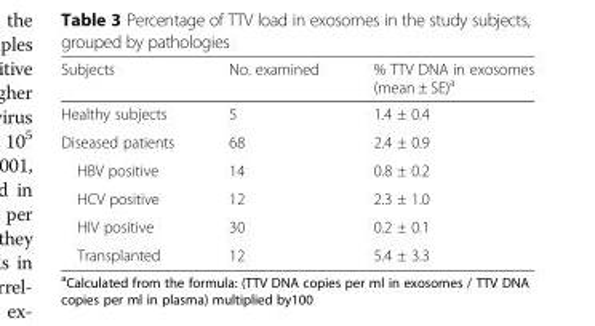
<table><thead><tr><td>Subjects</td><td>No. examined</td><td>% TTV DNA in exosomes (mean ± SE)<sup>a</sup></td></tr></thead><tbody><tr><td>Healthy subjects</td><td>5</td><td>1.4 ± 0.4</td></tr><tr><td>Diseased patients</td><td>68</td><td>2.4 ± 0.9</td></tr><tr><td>HBV positive</td><td>14</td><td>0.8 ± 0.2</td></tr><tr><td>HCV positive</td><td>12</td><td>2.3 ± 1.0</td></tr><tr><td>HIV positive</td><td>30</td><td>0.2 ± 0.1</td></tr><tr><td>Transplanted</td><td>12</td><td>5.4 ± 3.3</td></tr></tbody></table>